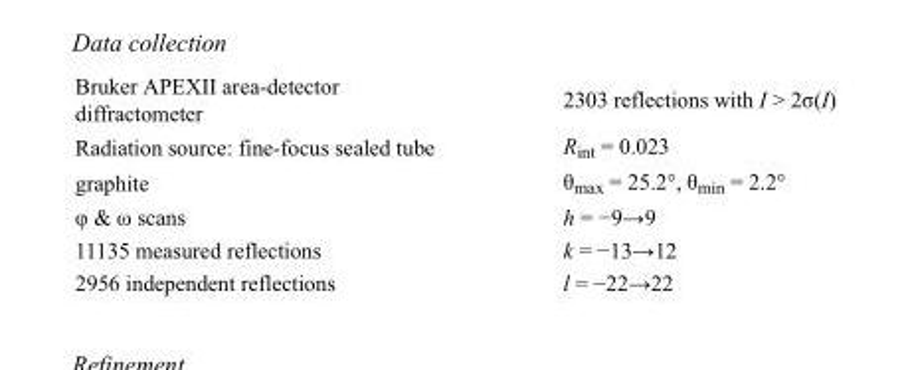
<table><tbody><tr><td>Bruker APEXII area-detector diffractometer</td><td>2303 reflections with I &gt; 2σ(I)</td></tr><tr><td>Radiation source: fine-focus sealed tube</td><td>R<sub>int</sub> = 0.023</td></tr><tr><td>graphite</td><td>θ<sub>max</sub> = 25.2°, θ<sub>min</sub> = 2.2°</td></tr><tr><td>φ &amp; ω scans</td><td>h = −9→9</td></tr><tr><td>11135 measured reflections</td><td>k = −13→12</td></tr><tr><td>2956 independent reflections</td><td>l = −22→22</td></tr></tbody></table>